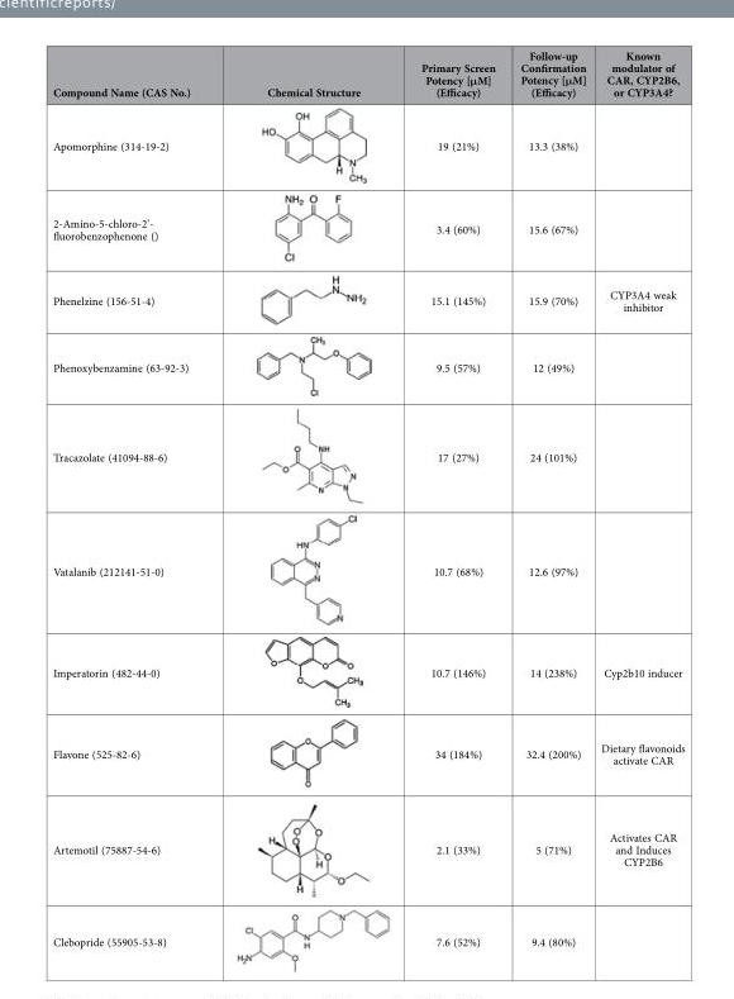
<table><thead><tr><td>Compound Name (CAS No.)</td><td>Chemical Structure</td><td>Primary Screen Potency [μM] (Efficacy)</td><td>Follow-up Confirmation Potency [μM] (Efficacy)</td><td>Known modulator of CAR, CYP2B6, or CYP3A4?</td></tr></thead><tbody><tr><td>Apomorphine (314-19-2)</td><td></td><td>19 (21%)</td><td>13.3 (38%)</td><td></td></tr><tr><td>2-Amino-5-chloro-2’- fluorobenzophenone ()</td><td></td><td>3.4 (60%)</td><td>15.6 (67%)</td><td></td></tr><tr><td>Phenelzine (156-51-4)</td><td></td><td>15.1 (145%)</td><td>15.9 (70%)</td><td>CYP3A4 weak inhibitor</td></tr><tr><td>Phenoxybenzamine (63-92-3)</td><td></td><td>9.5 (57%)</td><td>12 (49%)</td><td></td></tr><tr><td>Tracazolate (41094-88-6)</td><td></td><td>17 (27%)</td><td>24 (101%)</td><td></td></tr><tr><td>Vatalanib (212141-51-0)</td><td></td><td>10.7 (68%)</td><td>12.6 (97%)</td><td></td></tr><tr><td>Imperatorin (482-44-0)</td><td></td><td>10.7 (146%)</td><td>14 (238%)</td><td>Cyp2b10 inducer</td></tr><tr><td>Flavone (525-82-6)</td><td></td><td>34 (184%)</td><td>32.4 (200%)</td><td>Dietary flavonoids activate CAR</td></tr><tr><td>Artemotil (75887-54-6)</td><td></td><td>2.1 (33%)</td><td>5 (71%)</td><td>Activates CAR and Induces CYP2B6</td></tr><tr><td>Clebopride (55905-53-8)</td><td></td><td>7.6 (52%)</td><td>9.4 (80%)</td><td></td></tr></tbody></table>